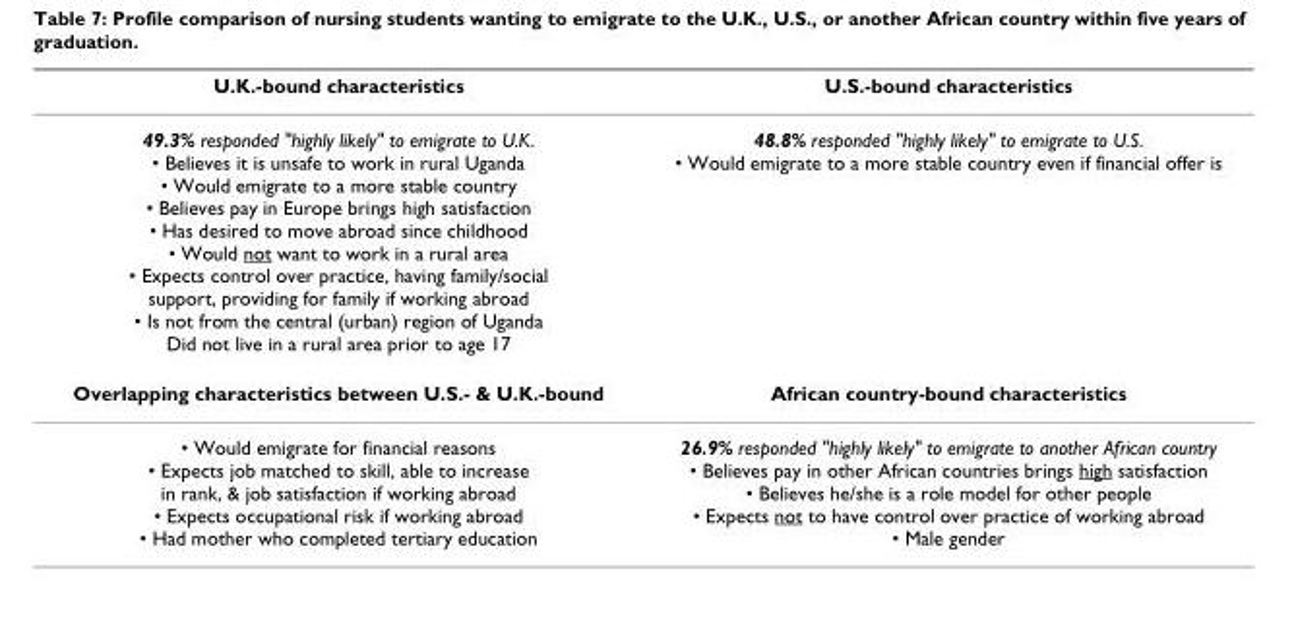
<table><thead><tr><td>U.K.-bound characteristics</td><td>U.S.-bound characteristics</td></tr></thead><tbody><tr><td>49.3% responded &quot;highly likely&quot; to emigrate to U.K. • Believes it is unsafe to work in rural Uganda • Would emigrate to a more stable country • Believes pay in Europe brings high satisfaction • Has desired to move abroad since childhood • Would not want to work in a rural area • Expects control over practice, having family/social support, providing for family if working abroad • Is not from the central (urban) region of Uganda Did not live in a rural area prior to age 17</td><td>48.8% responded &quot;highly likely&quot; to emigrate to U.S. • Would emigrate to a more stable country even if financial offer is</td></tr><tr><td>Overlapping characteristics between U.S.- &amp; U.K.-bound</td><td>African country-bound characteristics</td></tr><tr><td>• Would emigrate for financial reasons • Expects job matched to skill, able to increase in rank, &amp; job satisfaction if working abroad • Expects occupational risk if working abroad • Had mother who completed tertiary education</td><td>26.9% responded &quot;highly likely&quot; to emigrate to another African country • Believes pay in other African countries brings high satisfaction • Believes he/she is a role model for other people • Expects not to have control over practice of working abroad • Male gender</td></tr></tbody></table>